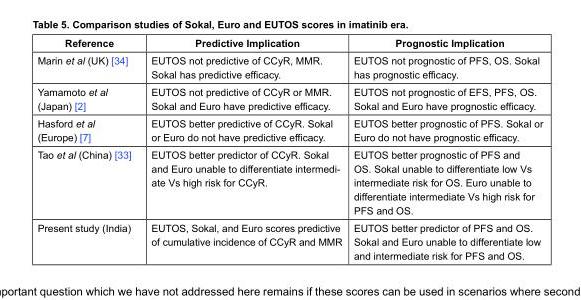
<table><thead><tr><td>Reference</td><td>Predictive Implication</td><td>Prognostic Implication</td></tr></thead><tbody><tr><td>Marin et al (UK) [34]</td><td>EUTOS not predictive of CCyR, MMR. Sokal has predictive efficacy.</td><td>EUTOS not prognostic of PFS, OS. Sokal has prognostic efficacy.</td></tr><tr><td>Yamamoto et al (Japan) [2]</td><td>EUTOS not predictive of CCyR or MMR. Sokal and Euro have predictive efficacy.</td><td>EUTOS not prognostic of EFS, PFS, OS. Sokal and Euro have prognostic efficacy.</td></tr><tr><td>Hasford et al (Europe) [7]</td><td>EUTOS better predictive of CCyR. Sokal or Euro do not have predictive efficacy.</td><td>EUTOS better prognostic of PFS. Sokal or Euro do not have prognostic efficacy.</td></tr><tr><td>Tao et al (China) [33]</td><td>EUTOS better predictor of CCyR. Sokal and Euro unable to differentiate intermedi- ate Vs high risk for CCyR.</td><td>EUTOS better prognostic of PFS and OS. Sokal unable to differentiate low Vs intermediate risk for OS. Euro unable to differentiate intermediate Vs high risk for PFS and OS.</td></tr><tr><td>Present study (India)</td><td>EUTOS, Sokal, and Euro scores predictive of cumulative incidence of CCyR and MMR</td><td>EUTOS better predictor of PFS and OS. Sokal and Euro unable to differentiate low and intermediate risk for PFS and OS.</td></tr></tbody></table>